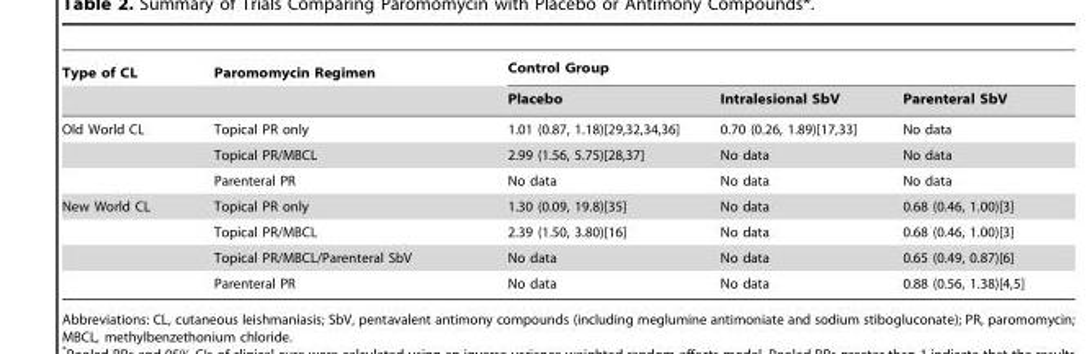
<table><thead><tr><td rowspan="2">Type of CL</td><td rowspan="2">Paromomycin Regimen</td><td colspan="3">Control Group</td></tr><tr><td>Placebo</td><td>Intralesional SbV</td><td>Parenteral SbV</td></tr></thead><tbody><tr><td rowspan="3">Old World CL</td><td>Topical PR only</td><td>1.01 (0.87, 1.18)[29,32,34,36]</td><td>0.70 (0.26, 1.89)[17,33]</td><td>No data</td></tr><tr><td>Topical PR/MBCL</td><td>2.99 (1.56, 5.75)[28,37]</td><td>No data</td><td>No data</td></tr><tr><td>Parenteral PR</td><td>No data</td><td>No data</td><td>No data</td></tr><tr><td rowspan="4">New World CL</td><td>Topical PR only</td><td>1.30 (0.09, 19.8)[35]</td><td>No data</td><td>0.68 (0.46, 1.00)[3]</td></tr><tr><td>Topical PR/MBCL</td><td>2.39 (1.50, 3.80)[16]</td><td>No data</td><td>0.68 (0.46, 1.00)[3]</td></tr><tr><td>Topical PR/MBCL/Parenteral SbV</td><td>No data</td><td>No data</td><td>0.65 (0.49, 0.87)[6]</td></tr><tr><td>Parenteral PR</td><td>No data</td><td>No data</td><td>0.88 (0.56, 1.38)[4,5]</td></tr></tbody></table>